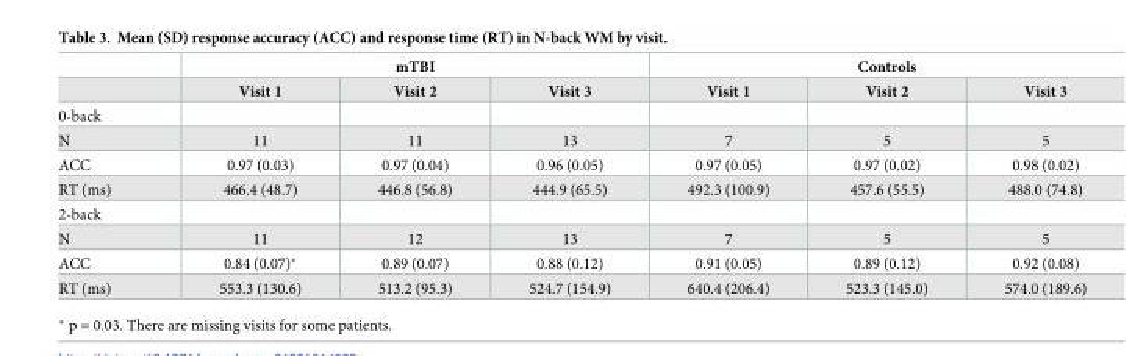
<table><thead><tr><td rowspan="2"></td><td colspan="3">mTBI</td><td colspan="3">Controls</td></tr><tr><td>Visit 1</td><td>Visit 2</td><td>Visit 3</td><td>Visit 1</td><td>Visit 2</td><td>Visit 3</td></tr></thead><tbody><tr><td colspan="7">0-back</td></tr><tr><td>N</td><td>11</td><td>11</td><td>13</td><td>7</td><td>5</td><td>5</td></tr><tr><td>ACC</td><td>0.97 (0.03)</td><td>0.97 (0.04)</td><td>0.96 (0.05)</td><td>0.97 (0.05)</td><td>0.97 (0.02)</td><td>0.98 (0.02)</td></tr><tr><td>RT (ms)</td><td>466.4 (48.7)</td><td>446.8 (56.8)</td><td>444.9 (65.5)</td><td>492.3 (100.9)</td><td>457.6 (55.5)</td><td>488.0 (74.8)</td></tr><tr><td colspan="7">2-back</td></tr><tr><td>N</td><td>11</td><td>12</td><td>13</td><td>7</td><td>5</td><td>5</td></tr><tr><td>ACC</td><td>0.84 (0.07)*</td><td>0.89 (0.07)</td><td>0.88 (0.12)</td><td>0.91 (0.05)</td><td>0.89 (0.12)</td><td>0.92 (0.08)</td></tr><tr><td>RT (ms)</td><td>553.3 (130.6)</td><td>513.2 (95.3)</td><td>524.7 (154.9)</td><td>640.4 (206.4)</td><td>523.3 (145.0)</td><td>574.0 (189.6)</td></tr></tbody></table>